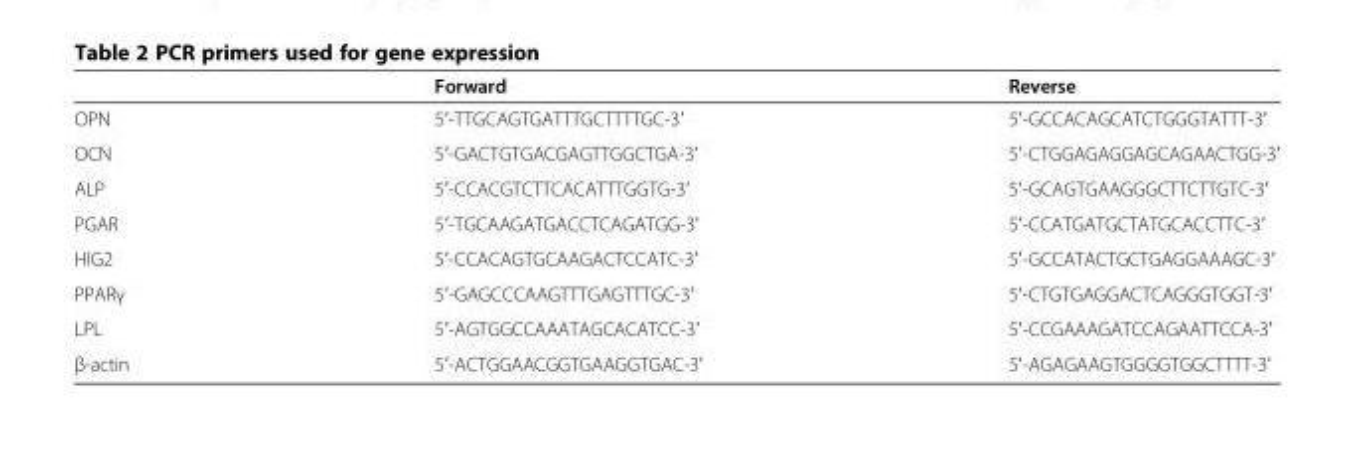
<table><thead><tr><td></td><td>Forward</td><td>Reverse</td></tr></thead><tbody><tr><td>OPN</td><td>5′-TTGCAGTGATTTGCTTTTGC-3′</td><td>5′-GCCACAGCATCTGGGTATTT-3′</td></tr><tr><td>OCN</td><td>5′-GACTGTGACGAGTTGGCTGA-3′</td><td>5′-CTGGAGAGGAGCAGAACTGG-3′</td></tr><tr><td>ALP</td><td>5′-CCACGTCTTCACATTTGGTG-3′</td><td>5′-GCAGTGAAGGGCTTCTTGTC-3′</td></tr><tr><td>PGAR</td><td>5′-TGCAAGATGACCTCAGATGG-3′</td><td>5′-CCATGATGCTATGCACCTTC-3′</td></tr><tr><td>HIG2</td><td>5′-CCACAGTGCAAGACTCCATC-3′</td><td>5′-GCCATACTGCTGAGGAAAGC-3′</td></tr><tr><td>PPARγ</td><td>5′-GAGCCCAAGTTTGAGTTTGC-3′</td><td>5′-CTGTGAGGACTCAGGGTGGT-3′</td></tr><tr><td>LPL</td><td>5′-AGTGGCCAAATAGCACATCC-3′</td><td>5′-CCGAAAGATCCAGAATTCCA-3′</td></tr><tr><td>β-actin</td><td>5′-ACTGGAACGGTGAAGGTGAC-3′</td><td>5′-AGAGAAGTGGGGTGGCTTTT-3′</td></tr></tbody></table>